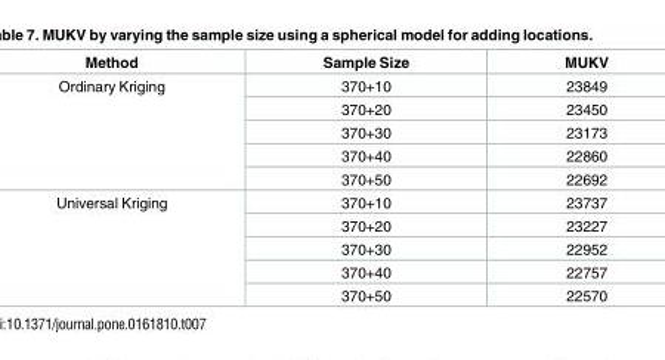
<table><thead><tr><td>Method</td><td>Sample Size</td><td>MUKV</td></tr></thead><tbody><tr><td rowspan="5">Ordinary Kriging</td><td>370+10</td><td>23849</td></tr><tr><td>370+20</td><td>23450</td></tr><tr><td>370+30</td><td>23173</td></tr><tr><td>370+40</td><td>22860</td></tr><tr><td>370+50</td><td>22692</td></tr><tr><td rowspan="5">Universal Kriging</td><td>370+10</td><td>23737</td></tr><tr><td>370+20</td><td>23227</td></tr><tr><td>370+30</td><td>22952</td></tr><tr><td>370+40</td><td>22757</td></tr><tr><td>370+50</td><td>22570</td></tr></tbody></table>